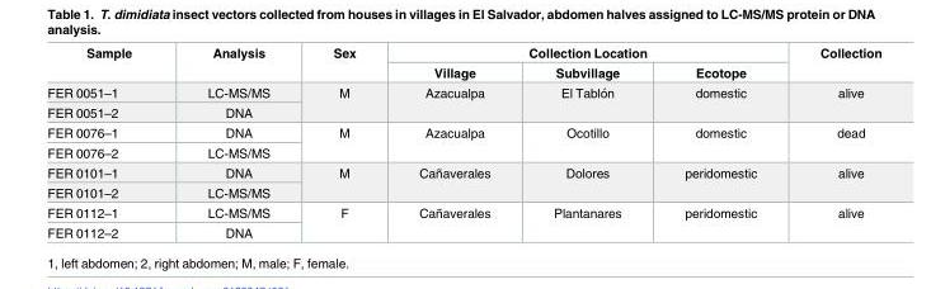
<table><thead><tr><td rowspan="2">Sample</td><td rowspan="2">Analysis</td><td rowspan="2">Sex</td><td colspan="3">Collection Location</td><td rowspan="2">Collection</td></tr><tr><td>Village</td><td>Subvillage</td><td>Ecotope</td></tr></thead><tbody><tr><td>FER 0051–1</td><td>LC-MS/MS</td><td rowspan="2">M</td><td rowspan="2">Azacualpa</td><td rowspan="2">El Tablo´n</td><td rowspan="2">domestic</td><td rowspan="2">alive</td></tr><tr><td>FER 0051–2</td><td>DNA</td></tr><tr><td>FER 0076–1</td><td>DNA</td><td rowspan="2">M</td><td rowspan="2">Azacualpa</td><td rowspan="2">Ocotillo</td><td rowspan="2">domestic</td><td rowspan="2">dead</td></tr><tr><td>FER 0076–2</td><td>LC-MS/MS</td></tr><tr><td>FER 0101–1</td><td>DNA</td><td rowspan="2">M</td><td rowspan="2">Cañaverales</td><td rowspan="2">Dolores</td><td rowspan="2">peridomestic</td><td rowspan="2">alive</td></tr><tr><td>FER 0101–2</td><td>LC-MS/MS</td></tr><tr><td>FER 0112–1</td><td>LC-MS/MS</td><td rowspan="2">F</td><td rowspan="2">Cañaverales</td><td rowspan="2">Plantanares</td><td rowspan="2">peridomestic</td><td rowspan="2">alive</td></tr><tr><td>FER 0112–2</td><td>DNA</td></tr></tbody></table>